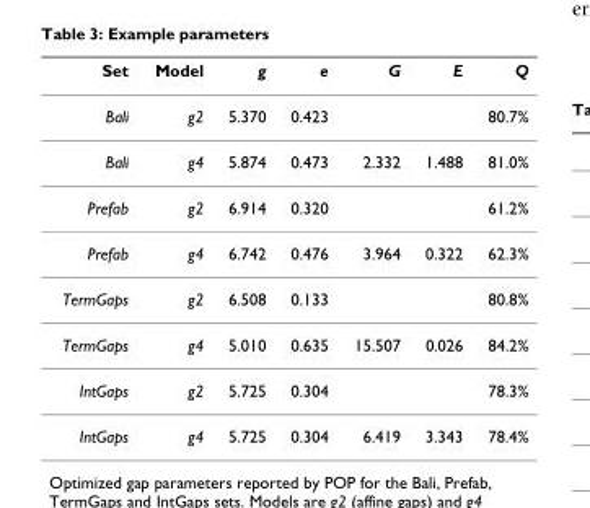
<table><thead><tr><td>Set</td><td>Model</td><td>g</td><td>e</td><td>G</td><td>E</td><td>Q</td></tr></thead><tbody><tr><td>Bali</td><td>g2</td><td>5.370</td><td>0.423</td><td></td><td></td><td>80.7%</td></tr><tr><td>Bali</td><td>g4</td><td>5.874</td><td>0.473</td><td>2.332</td><td>1.488</td><td>81.0%</td></tr><tr><td>Prefab</td><td>g2</td><td>6.914</td><td>0.320</td><td></td><td></td><td>61.2%</td></tr><tr><td>Prefab</td><td>g4</td><td>6.742</td><td>0.476</td><td>3.964</td><td>0.322</td><td>62.3%</td></tr><tr><td>TermGaps</td><td>g2</td><td>6.508</td><td>0.133</td><td></td><td></td><td>80.8%</td></tr><tr><td>TermGaps</td><td>g4</td><td>5.010</td><td>0.635</td><td>15.507</td><td>0.026</td><td>84.2%</td></tr><tr><td>IntGaps</td><td>g2</td><td>5.725</td><td>0.304</td><td></td><td></td><td>78.3%</td></tr><tr><td>IntGaps</td><td>g4</td><td>5.725</td><td>0.304</td><td>6.419</td><td>3.343</td><td>78.4%</td></tr></tbody></table>